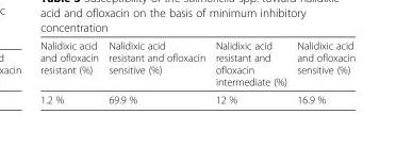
<table><thead><tr><td>Nalidixic acid and ofloxacin resistant (%)</td><td>Nalidixic acid resistant and ofloxacin sensitive (%)</td><td>Nalidixic acid resistant and ofloxacin intermediate (%)</td><td>Nalidixic acid and ofloxacin sensitive (%)</td></tr></thead><tbody><tr><td>1.2 %</td><td>69.9 %</td><td>12 %</td><td>16.9 %</td></tr></tbody></table>